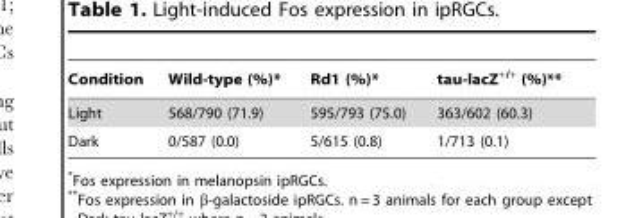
<table><thead><tr><td>Condition</td><td>Wild-type (%)*</td><td>Rd1 (%)*</td><td>tau-lacZ<sup>+/+</sup> (%)**</td></tr></thead><tbody><tr><td>Light</td><td>568/790 (71.9)</td><td>595/793 (75.0)</td><td>363/602 (60.3)</td></tr><tr><td>Dark</td><td>0/587 (0.0)</td><td>5/615 (0.8)</td><td>1/713 (0.1)</td></tr></tbody></table>